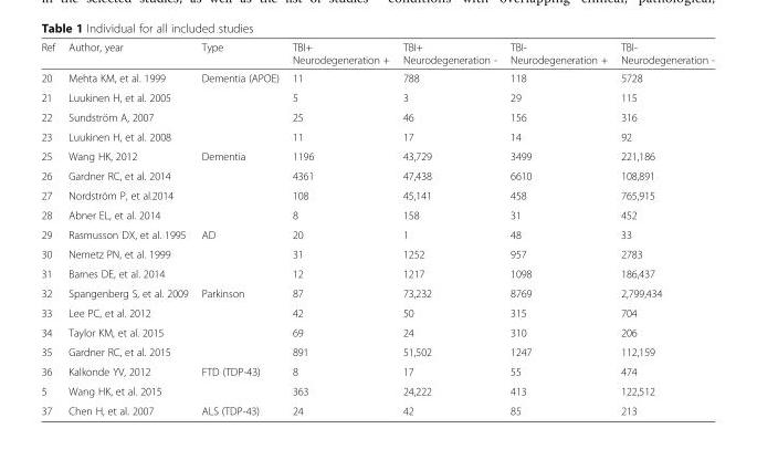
<table><thead><tr><td>Ref</td><td>Author, year</td><td>Type</td><td>TBI+ Neurodegeneration +</td><td>TBI+ Neurodegeneration -</td><td>TBI- Neurodegeneration +</td><td>TBI- Neurodegeneration -</td></tr></thead><tbody><tr><td>20</td><td>Mehta KM, et al. 1999</td><td rowspan="4">Dementia (APOE)</td><td>11</td><td>788</td><td>118</td><td>5728</td></tr><tr><td>21</td><td>Luukinen H, et al. 2005</td><td>5</td><td>3</td><td>29</td><td>115</td></tr><tr><td>22</td><td>Sundström A, 2007</td><td>25</td><td>46</td><td>156</td><td>316</td></tr><tr><td>23</td><td>Luukinen H, et al. 2008</td><td>11</td><td>17</td><td>14</td><td>92</td></tr><tr><td>25</td><td>Wang HK, 2012</td><td rowspan="4">Dementia</td><td>1196</td><td>43,729</td><td>3499</td><td>221,186</td></tr><tr><td>26</td><td>Gardner RC, et al. 2014</td><td>4361</td><td>47,438</td><td>6610</td><td>108,891</td></tr><tr><td>27</td><td>Nordström P, et al.2014</td><td>108</td><td>45,141</td><td>458</td><td>765,915</td></tr><tr><td>28</td><td>Abner EL, et al. 2014</td><td>8</td><td>158</td><td>31</td><td>452</td></tr><tr><td>29</td><td>Rasmusson DX, et al. 1995</td><td rowspan="3">AD</td><td>20</td><td>1</td><td>48</td><td>33</td></tr><tr><td>30</td><td>Nemetz PN, et al. 1999</td><td>31</td><td>1252</td><td>957</td><td>2783</td></tr><tr><td>31</td><td>Barnes DE, et al. 2014</td><td>12</td><td>1217</td><td>1098</td><td>186,437</td></tr><tr><td>32</td><td>Spangenberg S, et al. 2009</td><td rowspan="4">Parkinson</td><td>87</td><td>73,232</td><td>8769</td><td>2,799,434</td></tr><tr><td>33</td><td>Lee PC, et al. 2012</td><td>42</td><td>50</td><td>315</td><td>704</td></tr><tr><td>34</td><td>Taylor KM, et al. 2015</td><td>69</td><td>24</td><td>310</td><td>206</td></tr><tr><td>35</td><td>Gardner RC, et al. 2015</td><td>891</td><td>51,502</td><td>1247</td><td>112,159</td></tr><tr><td>36</td><td>Kalkonde YV, 2012</td><td rowspan="2">FTD (TDP-43)</td><td>8</td><td>17</td><td>55</td><td>474</td></tr><tr><td>5</td><td>Wang HK, et al. 2015</td><td>363</td><td>24,222</td><td>413</td><td>122,512</td></tr><tr><td>37</td><td>Chen H, et al. 2007</td><td>ALS (TDP-43)</td><td>24</td><td>42</td><td>85</td><td>213</td></tr></tbody></table>